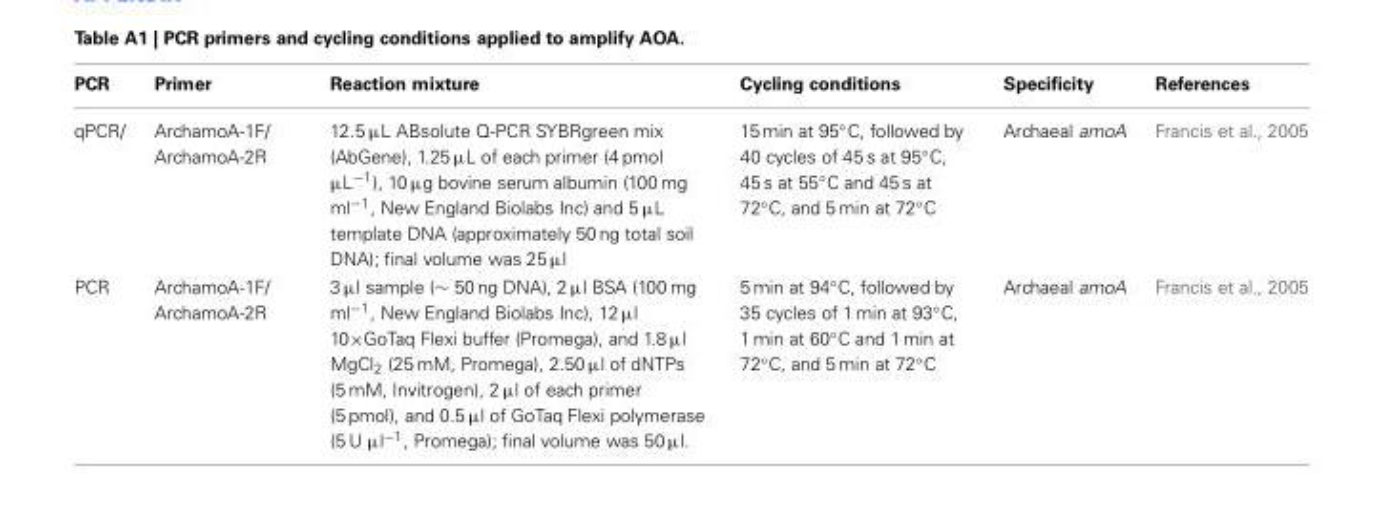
<table><thead><tr><td>PCR</td><td>Primer</td><td>Reaction mixture</td><td>Cycling conditions</td><td>Specificity</td><td>References</td></tr></thead><tbody><tr><td>qPCR/</td><td>ArchamoA-1F/ ArchamoA-2R</td><td>12.5 μL ABsolute Q-PCR SYBRgreen mix (AbGene), 1.25 μL of each primer (4 pmol μL<sup>−1</sup>), 10 μg bovine serum albumin (100 mg ml<sup>−1</sup>, New England Biolabs Inc) and 5 μL template DNA (approximately 50 ng total soil DNA); final volume was 25 μl</td><td>15 min at 95◦C, followed by 40 cycles of 45 s at 95◦C, 45 s at 55◦C and 45 s at 72◦C, and 5 min at 72◦C</td><td>Archaeal amoA</td><td>Francis et al., 2005</td></tr><tr><td>PCR</td><td>ArchamoA-1F/ ArchamoA-2R</td><td>3 μl sample (∼ 50 ng DNA), 2 μl BSA (100 mg ml−1, New England Biolabs Inc), 12 μl 10×GoTaq Flexi buffer (Promega), and 1.8 μl MgCl2 (25 mM, Promega), 2.50 μl of dNTPs (5 mM, Invitrogen), 2 μl of each primer (5 pmol), and 0.5 μl of GoTaq Flexi polymerase (5 U μl−1, Promega); final volume was 50 μl.</td><td>5 min at 94◦C, followed by 35 cycles of 1 min at 93◦C, 1 min at 60◦C and 1 min at 72◦C, and 5 min at 72◦C</td><td>Archaeal amoA</td><td>Francis et al., 2005</td></tr></tbody></table>